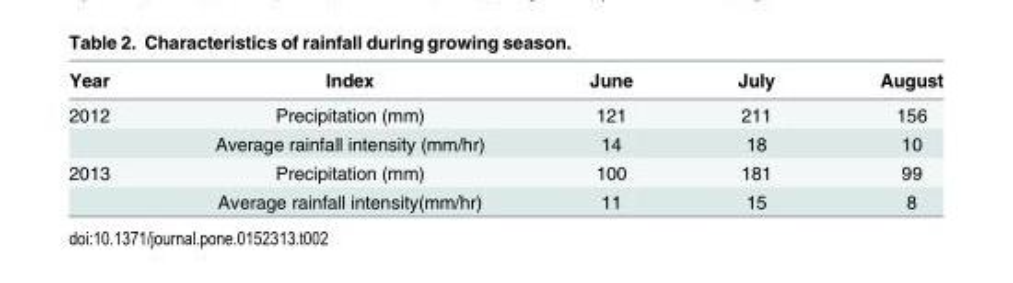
<table><thead><tr><td>Year</td><td>Index</td><td>June</td><td>July</td><td>August</td></tr></thead><tbody><tr><td rowspan="2">2012</td><td>Precipitation (mm)</td><td>121</td><td>211</td><td>156</td></tr><tr><td>Average rainfall intensity (mm/hr)</td><td>14</td><td>18</td><td>10</td></tr><tr><td rowspan="2">2013</td><td>Precipitation (mm)</td><td>100</td><td>181</td><td>99</td></tr><tr><td>Average rainfall intensity(mm/hr)</td><td>11</td><td>15</td><td>8</td></tr></tbody></table>